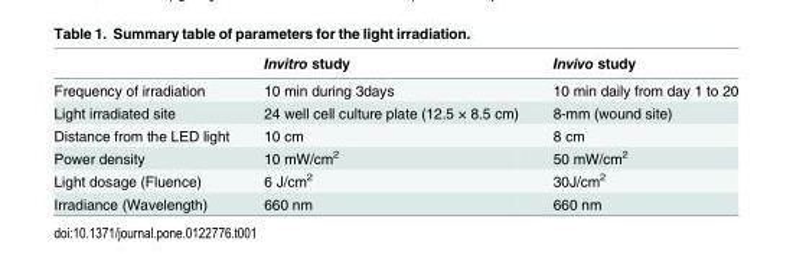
<table><thead><tr><td></td><td>Invitro study</td><td>Invivo study</td></tr></thead><tbody><tr><td>Frequency of irradiation</td><td>10 min during 3days</td><td>10 min daily from day 1 to 20</td></tr><tr><td>Light irradiated site</td><td>24 well cell culture plate (12.5 × 8.5 cm)</td><td>8-mm (wound site)</td></tr><tr><td>Distance from the LED light</td><td>10 cm</td><td>8 cm</td></tr><tr><td>Power density</td><td>10 mW/cm<sup>2</sup></td><td>50 mW/cm<sup>2</sup></td></tr><tr><td>Light dosage (Fluence)</td><td>6 J/cm<sup>2</sup></td><td>30J/cm<sup>2</sup></td></tr><tr><td>Irradiance (Wavelength)</td><td>660 nm</td><td>660 nm</td></tr></tbody></table>